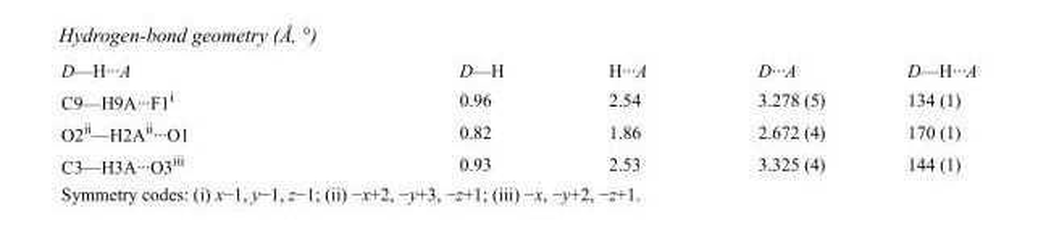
<table><tbody><tr><td>D—H···A</td><td>D—H</td><td>H···A</td><td>D···A</td><td>D—H···A</td></tr><tr><td>C9—H9A···F1<sup>i</sup></td><td>0.96</td><td>2.54</td><td>3.278 (5)</td><td>134 (1)</td></tr><tr><td>O2<sup>ii</sup>—H2A<sup>ii</sup>···O1</td><td>0.82</td><td>1.86</td><td>2.672 (4)</td><td>170 (1)</td></tr><tr><td>C3—H3A···O3<sup>iii</sup></td><td>0.93</td><td>2.53</td><td>3.325 (4)</td><td>144 (1)</td></tr></tbody></table>